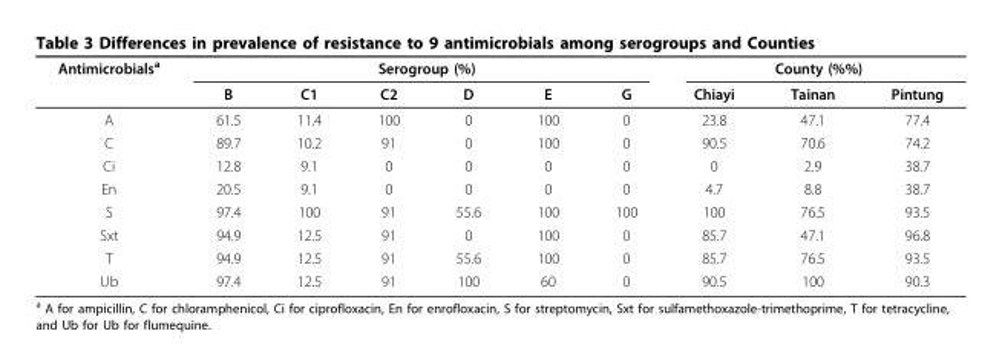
<table><thead><tr><td rowspan="2">Antimicrobials<sup>a</sup></td><td colspan="6">Serogroup (%)</td><td colspan="3">County (%%)</td></tr><tr><td>B</td><td>C1</td><td>C2</td><td>D</td><td>E</td><td>G</td><td>Chiayi</td><td>Tainan</td><td>Pintung</td></tr></thead><tbody><tr><td>A</td><td>61.5</td><td>11.4</td><td>100</td><td>0</td><td>100</td><td>0</td><td>23.8</td><td>47.1</td><td>77.4</td></tr><tr><td>C</td><td>89.7</td><td>10.2</td><td>91</td><td>0</td><td>100</td><td>0</td><td>90.5</td><td>70.6</td><td>74.2</td></tr><tr><td>Ci</td><td>12.8</td><td>9.1</td><td>0</td><td>0</td><td>0</td><td>0</td><td>0</td><td>2.9</td><td>38.7</td></tr><tr><td>En</td><td>20.5</td><td>9.1</td><td>0</td><td>0</td><td>0</td><td>0</td><td>4.7</td><td>8.8</td><td>38.7</td></tr><tr><td>S</td><td>97.4</td><td>100</td><td>91</td><td>55.6</td><td>100</td><td>100</td><td>100</td><td>76.5</td><td>93.5</td></tr><tr><td>Sxt</td><td>94.9</td><td>12.5</td><td>91</td><td>0</td><td>100</td><td>0</td><td>85.7</td><td>47.1</td><td>96.8</td></tr><tr><td>T</td><td>94.9</td><td>12.5</td><td>91</td><td>55.6</td><td>100</td><td>0</td><td>85.7</td><td>76.5</td><td>93.5</td></tr><tr><td>Ub</td><td>97.4</td><td>12.5</td><td>91</td><td>100</td><td>60</td><td>0</td><td>90.5</td><td>100</td><td>90.3</td></tr></tbody></table>